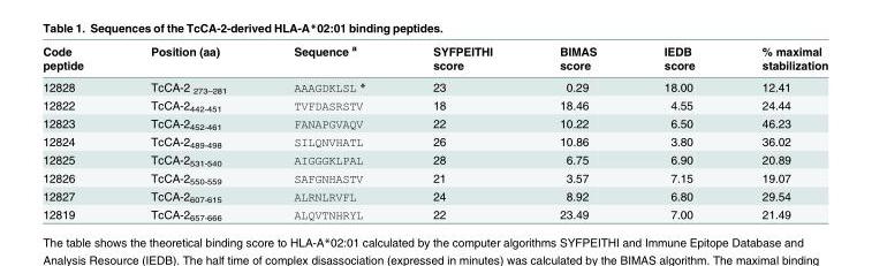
<table><thead><tr><td rowspan="2">Code peptide</td><td rowspan="2">Position (aa)</td><td rowspan="2">Sequence <sup>a</sup></td><td rowspan="2">SYFPEITHI score</td><td rowspan="2">BIMAS score</td><td rowspan="2">IEDB score</td><td rowspan="2">% maximal stabilization</td></tr><tr></tr></thead><tbody><tr><td>12828</td><td>TcCA-2 <sub>273–281</sub></td><td>AAAGDKLSL *</td><td>23</td><td>0.29</td><td>18.00</td><td>12.41</td></tr><tr><td>12822</td><td>TcCA-2<sub>442-451</sub></td><td>TVFDASRSTV</td><td>18</td><td>18.46</td><td>4.55</td><td>24.44</td></tr><tr><td>12823</td><td>TcCA-2<sub>452-461</sub></td><td>FANAPGVAQV</td><td>22</td><td>10.22</td><td>6.50</td><td>46.23</td></tr><tr><td>12824</td><td>TcCA-2<sub>489-498</sub></td><td>SILQNVHATL</td><td>26</td><td>10.86</td><td>3.80</td><td>36.02</td></tr><tr><td>12825</td><td>TcCA-2<sub>531-540</sub></td><td>AIGGGKLPAL</td><td>28</td><td>6.75</td><td>6.90</td><td>20.89</td></tr><tr><td>12826</td><td>TcCA-2<sub>550-559</sub></td><td>SAFGNHASTV</td><td>21</td><td>3.57</td><td>7.15</td><td>19.07</td></tr><tr><td>12827</td><td>TcCA-2<sub>607-615</sub></td><td>ALRNLRVFL</td><td>24</td><td>8.92</td><td>6.80</td><td>29.54</td></tr><tr><td>12819</td><td>TcCA-2<sub>657-666</sub></td><td>ALQVTNHRYL</td><td>22</td><td>23.49</td><td>7.00</td><td>21.49</td></tr></tbody></table>